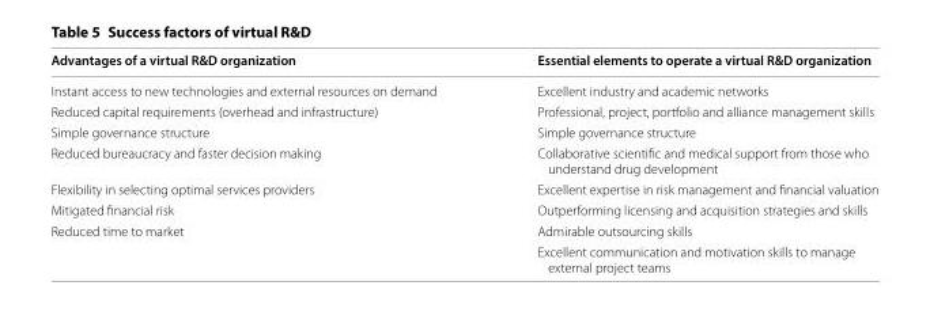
<table><thead><tr><td>Advantages of a virtual R&amp;D organization</td><td>Essential elements to operate a virtual R&amp;D organization</td></tr></thead><tbody><tr><td>Instant access to new technologies and external resources on demand</td><td>Excellent industry and academic networks</td></tr><tr><td>Reduced capital requirements (overhead and infrastructure)</td><td>Professional, project, portfolio and alliance management skills</td></tr><tr><td>Simple governance structure</td><td>Simple governance structure</td></tr><tr><td>Reduced bureaucracy and faster decision making</td><td>Collaborative scientific and medical support from those who understand drug development</td></tr><tr><td>Flexibility in selecting optimal services providers</td><td>Excellent expertise in risk management and financial valuation</td></tr><tr><td>Mitigated financial risk</td><td>Outperforming licensing and acquisition strategies and skills</td></tr><tr><td rowspan="2">Reduced time to market</td><td>Admirable outsourcing skills</td></tr><tr><td>Excellent communication and motivation skills to manage external project teams</td></tr></tbody></table>